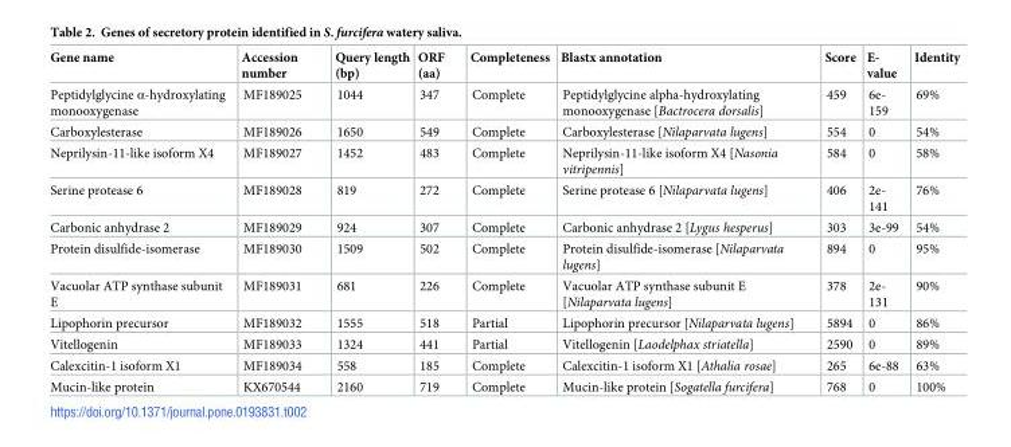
<table><thead><tr><td>Gene name</td><td>Accession number</td><td>Query length (bp)</td><td>ORF (aa)</td><td>Completeness</td><td>Blastx annotation</td><td>Score</td><td>E- value</td><td>Identity</td></tr></thead><tbody><tr><td>Peptidylglycine α-hydroxylating monooxygenase</td><td>MF189025</td><td>1044</td><td>347</td><td>Complete</td><td>Peptidylglycine alpha-hydroxylating monooxygenase [Bactrocera dorsalis]</td><td>459</td><td>6e- 159</td><td>69%</td></tr><tr><td>Carboxylesterase</td><td>MF189026</td><td>1650</td><td>549</td><td>Complete</td><td>Carboxylesterase [Nilaparvata lugens]</td><td>554</td><td>0</td><td>54%</td></tr><tr><td>Neprilysin-11-like isoform X4</td><td>MF189027</td><td>1452</td><td>483</td><td>Complete</td><td>Neprilysin-11-like isoform X4 [Nasonia vitripennis]</td><td>584</td><td>0</td><td>58%</td></tr><tr><td>Serine protease 6</td><td>MF189028</td><td>819</td><td>272</td><td>Complete</td><td>Serine protease 6 [Nilaparvata lugens]</td><td>406</td><td>2e- 141</td><td>76%</td></tr><tr><td>Carbonic anhydrase 2</td><td>MF189029</td><td>924</td><td>307</td><td>Complete</td><td>Carbonic anhydrase 2 [Lygus hesperus]</td><td>303</td><td>3e-99</td><td>54%</td></tr><tr><td>Protein disulfide-isomerase</td><td>MF189030</td><td>1509</td><td>502</td><td>Complete</td><td>Protein disulfide-isomerase [Nilaparvata lugens]</td><td>894</td><td>0</td><td>95%</td></tr><tr><td>Vacuolar ATP synthase subunit E</td><td>MF189031</td><td>681</td><td>226</td><td>Complete</td><td>Vacuolar ATP synthase subunit E [Nilaparvata lugens]</td><td>378</td><td>2e- 131</td><td>90%</td></tr><tr><td>Lipophorin precursor</td><td>MF189032</td><td>1555</td><td>518</td><td>Partial</td><td>Lipophorin precursor [Nilaparvata lugens]</td><td>5894</td><td>0</td><td>86%</td></tr><tr><td>Vitellogenin</td><td>MF189033</td><td>1324</td><td>441</td><td>Partial</td><td>Vitellogenin [Laodelphax striatella]</td><td>2590</td><td>0</td><td>89%</td></tr><tr><td>Calexcitin-1 isoform X1</td><td>MF189034</td><td>558</td><td>185</td><td>Complete</td><td>Calexcitin-1 isoform X1 [Athalia rosae]</td><td>265</td><td>6e-88</td><td>63%</td></tr><tr><td>Mucin-like protein</td><td>KX670544</td><td>2160</td><td>719</td><td>Complete</td><td>Mucin-like protein [Sogatella furcifera]</td><td>768</td><td>0</td><td>100%</td></tr></tbody></table>